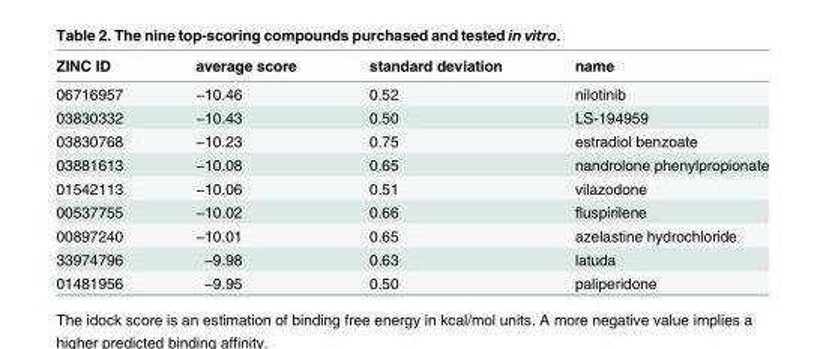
<table><thead><tr><td>ZINC ID</td><td>average score</td><td>standard deviation</td><td>name</td></tr></thead><tbody><tr><td>06716957</td><td>−10.46</td><td>0.52</td><td>nilotinib</td></tr><tr><td>03830332</td><td>−10.43</td><td>0.50</td><td>LS-194959</td></tr><tr><td>03830768</td><td>−10.23</td><td>0.75</td><td>estradiol benzoate</td></tr><tr><td>03881613</td><td>−10.08</td><td>0.65</td><td>nandrolone phenylpropionate</td></tr><tr><td>01542113</td><td>−10.06</td><td>0.51</td><td>vilazodone</td></tr><tr><td>00537755</td><td>−10.02</td><td>0.66</td><td>fluspirilene</td></tr><tr><td>00897240</td><td>−10.01</td><td>0.65</td><td>azelastine hydrochloride</td></tr><tr><td>33974796</td><td>−9.98</td><td>0.63</td><td>latuda</td></tr><tr><td>01481956</td><td>−9.95</td><td>0.50</td><td>paliperidone</td></tr></tbody></table>